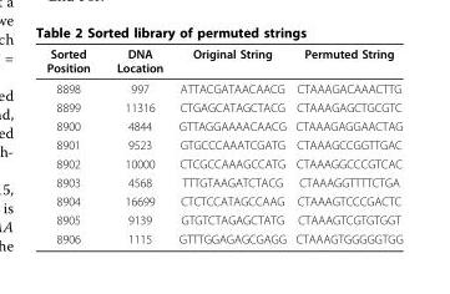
<table><thead><tr><td>Sorted Position</td><td>DNA Location</td><td>Original String</td><td>Permuted String</td></tr></thead><tbody><tr><td>8898</td><td>997</td><td>ATTACGATAACAACG</td><td>CTAAAGACAAACTTG</td></tr><tr><td>8899</td><td>11316</td><td>CTGAGCATAGCTACG</td><td>CTAAAGAGCTGCGTC</td></tr><tr><td>8900</td><td>4844</td><td>GTTAGGAAAACAACG</td><td>CTAAAGAGGAACTAG</td></tr><tr><td>8901</td><td>9523</td><td>GTGCCCAAATCGATG</td><td>CTAAAGCCGGTTGAC</td></tr><tr><td>8902</td><td>10000</td><td>CTCGCCAAAGCCATG</td><td>CTAAAGGCCCGTCAC</td></tr><tr><td>8903</td><td>4568</td><td>TTTGTAAGATCTACG</td><td>CTAAAGGTTTTCTGA</td></tr><tr><td>8904</td><td>16699</td><td>CTCTCCATAGCCAAG</td><td>CTAAAGTCCCGACTC</td></tr><tr><td>8905</td><td>9139</td><td>GTGTCTAGAGCTATG</td><td>CTAAAGTCGTGTGGT</td></tr><tr><td>8906</td><td>1115</td><td>GTTTGGAGAGCGAGG</td><td>CTAAAGTGGGGGTGG</td></tr></tbody></table>